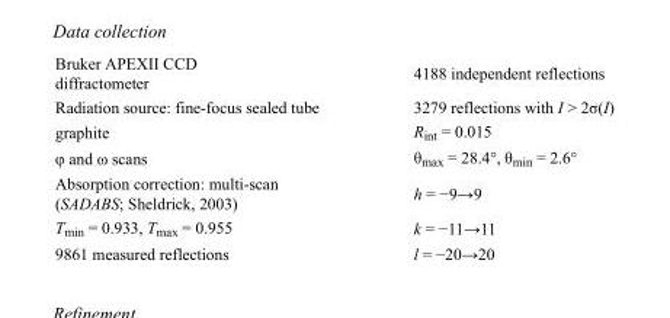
<table><tbody><tr><td>Bruker APEXII CCD diffractometer</td><td>4188 independent reflections</td></tr><tr><td>Radiation source: fine-focus sealed tube</td><td>3279 reflections with I &gt; 2σ(I)</td></tr><tr><td>graphite</td><td>R<sub>int</sub> = 0.015</td></tr><tr><td>φ and ω scans</td><td>θ<sub>max</sub> = 28.4°, θ<sub>min</sub> = 2.6°</td></tr><tr><td>Absorption correction: multi-scan (SADABS; Sheldrick, 2003)</td><td>h = −9→9</td></tr><tr><td>T<sub>min</sub> = 0.933, T<sub>max</sub> = 0.955</td><td>k = −11→11</td></tr><tr><td>9861 measured reflections</td><td>l = −20→20</td></tr></tbody></table>